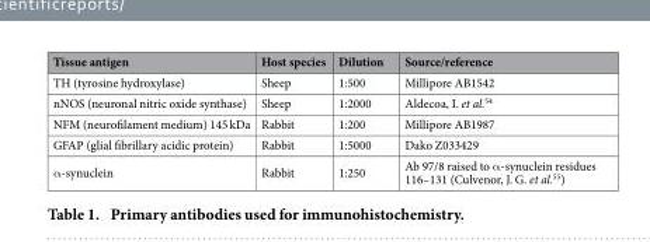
<table><thead><tr><td>Tissue antigen</td><td>Host species</td><td>Dilution</td><td>Source/reference</td></tr></thead><tbody><tr><td>TH (tyrosine hydroxylase)</td><td>Sheep</td><td>1:500</td><td>Millipore AB1542</td></tr><tr><td>nNOS (neuronal nitric oxide synthase)</td><td>Sheep</td><td>1:2000</td><td>Aldecoa, I. et al.<sup>54</sup></td></tr><tr><td>NFM (neurofilament medium) 145 kDa</td><td>Rabbit</td><td>1:200</td><td>Millipore AB1987</td></tr><tr><td>GFAP (glial fibrillary acidic protein)</td><td>Rabbit</td><td>1:5000</td><td>Dako Z033429</td></tr><tr><td>α -synuclein</td><td>Rabbit</td><td>1:250</td><td>Ab 97/8 raised to α -synuclein residues 116–131 (Culvenor, J. G. et al.<sup>55</sup>)</td></tr></tbody></table>